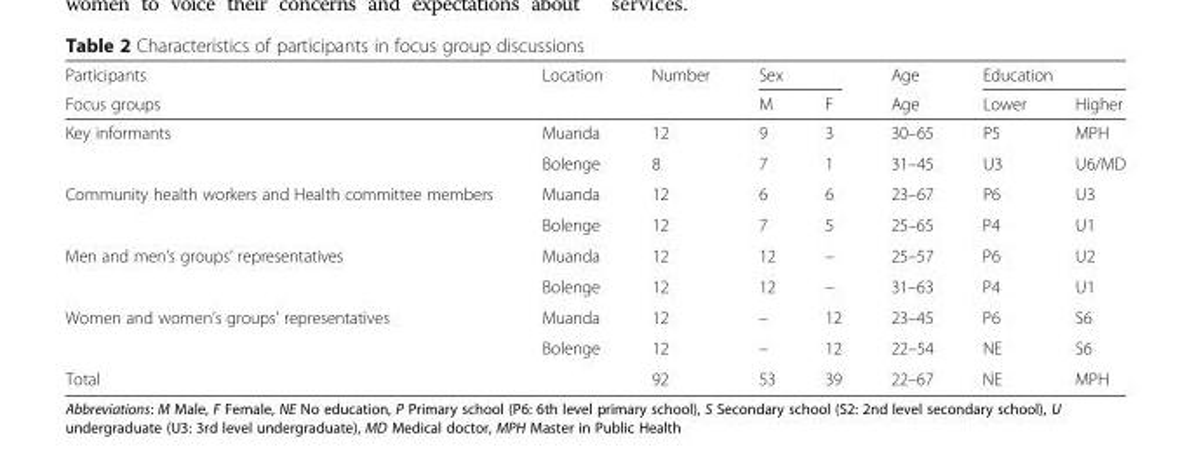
<table><thead><tr><td rowspan="2">Participants Focus groups</td><td rowspan="2">Location</td><td rowspan="2">Number</td><td colspan="2">Sex</td><td rowspan="2">Age Age</td><td colspan="2">Education</td></tr><tr><td>M</td><td>F</td><td>Lower</td><td>Higher</td></tr></thead><tbody><tr><td rowspan="2">Key informants</td><td>Muanda</td><td>12</td><td>9</td><td>3</td><td>30–65</td><td>P5</td><td>MPH</td></tr><tr><td>Bolenge</td><td>8</td><td>7</td><td>1</td><td>31–45</td><td>U3</td><td>U6/MD</td></tr><tr><td rowspan="2">Community health workers and Health committee members</td><td>Muanda</td><td>12</td><td>6</td><td>6</td><td>23–67</td><td>P6</td><td>U3</td></tr><tr><td>Bolenge</td><td>12</td><td>7</td><td>5</td><td>25–65</td><td>P4</td><td>U1</td></tr><tr><td rowspan="2">Men and men’s groups’ representatives</td><td>Muanda</td><td>12</td><td>12</td><td>–</td><td>25–57</td><td>P6</td><td>U2</td></tr><tr><td>Bolenge</td><td>12</td><td>12</td><td>–</td><td>31–63</td><td>P4</td><td>U1</td></tr><tr><td rowspan="2">Women and women’s groups’ representatives</td><td>Muanda</td><td>12</td><td>–</td><td>12</td><td>23–45</td><td>P6</td><td>S6</td></tr><tr><td>Bolenge</td><td>12</td><td>–</td><td>12</td><td>22–54</td><td>NE</td><td>S6</td></tr><tr><td>Total</td><td></td><td>92</td><td>53</td><td>39</td><td>22–67</td><td>NE</td><td>MPH</td></tr></tbody></table>